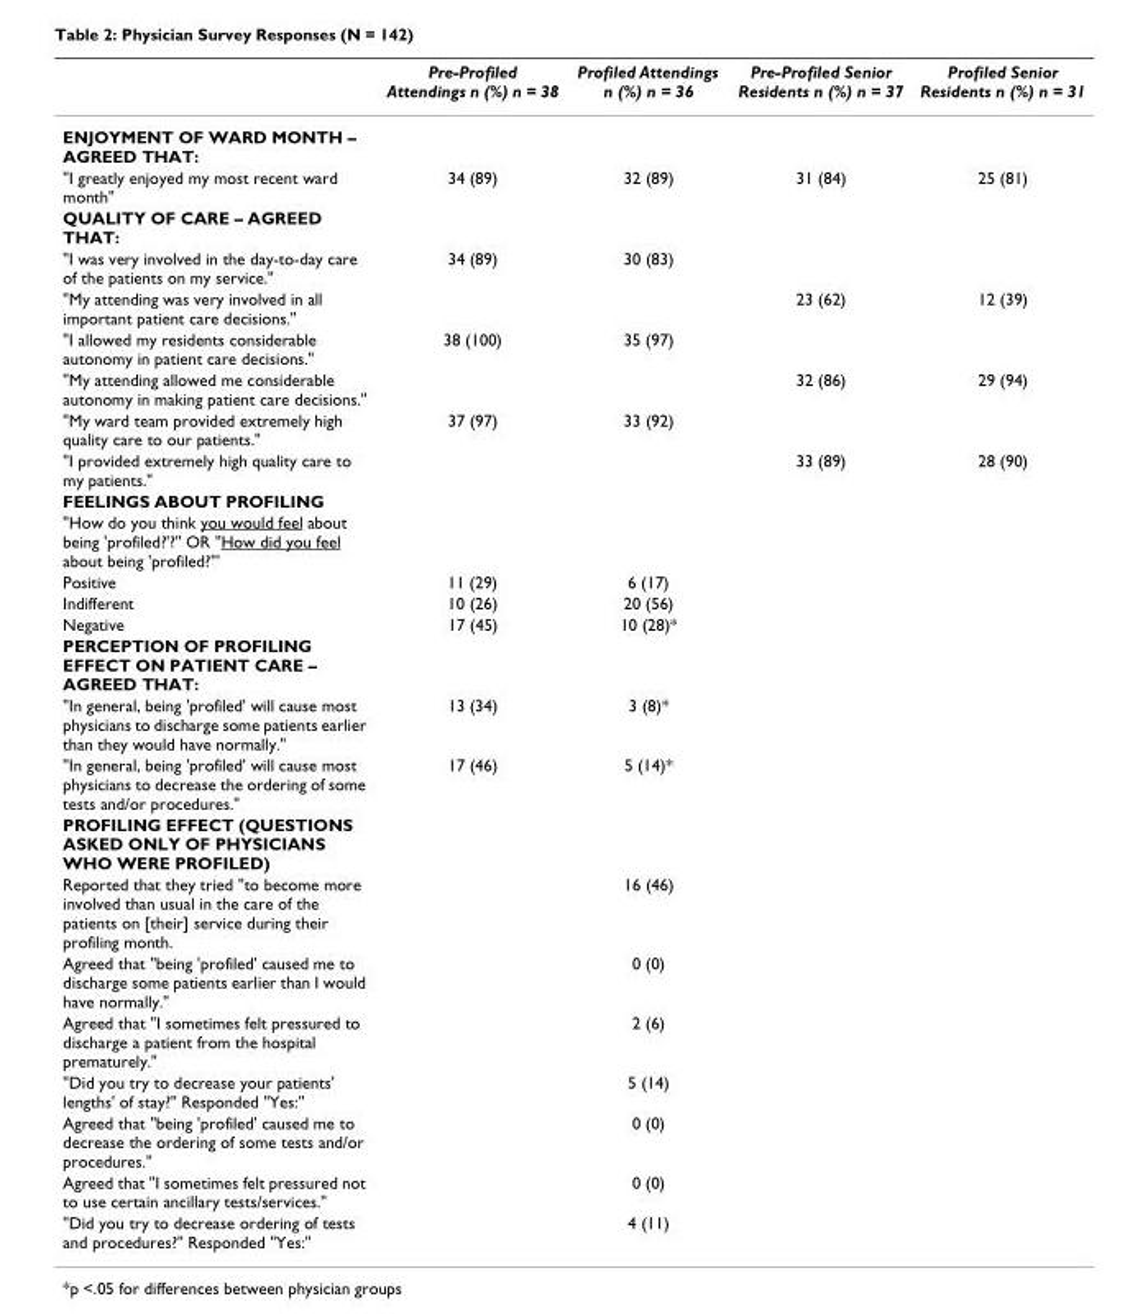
<table><thead><tr><td></td><td>Pre-Profiled Attendings n (%) n = 38</td><td>Profiled Attendings n (%) n = 36</td><td>Pre-Profiled Senior Residents n (%) n = 37</td><td>Profiled Senior Residents n (%) n = 31</td></tr></thead><tbody><tr><td colspan="5">ENJOYMENT OF WARD MONTH – AGREED THAT:</td></tr><tr><td>&quot;I greatly enjoyed my most recent ward month&quot;</td><td>34 (89)</td><td>32 (89)</td><td>31 (84)</td><td>25 (81)</td></tr><tr><td colspan="5">QUALITY OF CARE – AGREED THAT:</td></tr><tr><td>&quot;I was very involved in the day-to-day care of the patients on my service.&quot;</td><td>34 (89)</td><td>30 (83)</td><td></td><td></td></tr><tr><td>&quot;My attending was very involved in all important patient care decisions.&quot;</td><td></td><td></td><td>23 (62)</td><td>12 (39)</td></tr><tr><td>&quot;I allowed my residents considerable autonomy in patient care decisions.&quot;</td><td>38 (100)</td><td>35 (97)</td><td></td><td></td></tr><tr><td>&quot;My attending allowed me considerable autonomy in making patient care decisions.&quot;</td><td></td><td></td><td>32 (86)</td><td>29 (94)</td></tr><tr><td>&quot;My ward team provided extremely high quality care to our patients.&quot;</td><td>37 (97)</td><td>33 (92)</td><td></td><td></td></tr><tr><td>&quot;I provided extremely high quality care to my patients.&quot;</td><td></td><td></td><td>33 (89)</td><td>28 (90)</td></tr><tr><td colspan="5">FEELINGS ABOUT PROFILING</td></tr><tr><td colspan="5">&quot;How do you think you would feel about being &#x27;profiled?&#x27;?&quot; OR &quot;How did you feel about being &#x27;profiled?&quot;&#x27;</td></tr><tr><td>Positive</td><td>11 (29)</td><td>6 (17)</td><td></td><td></td></tr><tr><td>Indifferent</td><td>10 (26)</td><td>20 (56)</td><td></td><td></td></tr><tr><td>Negative</td><td>17 (45)</td><td>10 (28)*</td><td></td><td></td></tr><tr><td colspan="5">PERCEPTION OF PROFILING EFFECT ON PATIENT CARE – AGREED THAT:</td></tr><tr><td>&quot;In general, being &#x27;profiled&#x27; will cause most physicians to discharge some patients earlier than they would have normally.&quot;</td><td>13 (34)</td><td>3 (8)*</td><td></td><td></td></tr><tr><td>&quot;In general, being &#x27;profiled&#x27; will cause most physicians to decrease the ordering of some tests and/or procedures.&quot;</td><td>17 (46)</td><td>5 (14)*</td><td></td><td></td></tr><tr><td colspan="5">PROFILING EFFECT (QUESTIONS ASKED ONLY OF PHYSICIANS WHO WERE PROFILED)</td></tr><tr><td>Reported that they tried &quot;to become more involved than usual in the care of the patients on [their] service during their profiling month.</td><td></td><td>16 (46)</td><td></td><td></td></tr><tr><td>Agreed that &quot;being &#x27;profiled&#x27; caused me to discharge some patients earlier than I would have normally.&quot;</td><td></td><td>0 (0)</td><td></td><td></td></tr><tr><td>Agreed that &quot;I sometimes felt pressured to discharge a patient from the hospital prematurely.&quot;</td><td></td><td>2 (6)</td><td></td><td></td></tr><tr><td>&quot;Did you try to decrease your patients&#x27; lengths&#x27; of stay?&quot; Responded &quot;Yes:&quot;</td><td></td><td>5 (14)</td><td></td><td></td></tr><tr><td>Agreed that &quot;being &#x27;profiled&#x27; caused me to decrease the ordering of some tests and/or procedures.&quot;</td><td></td><td>0 (0)</td><td></td><td></td></tr><tr><td>Agreed that &quot;I sometimes felt pressured not to use certain ancillary tests/services.&quot;</td><td></td><td>0 (0)</td><td></td><td></td></tr><tr><td>&quot;Did you try to decrease ordering of tests and procedures?&quot; Responded &quot;Yes:&quot;</td><td></td><td>4 (11)</td><td></td><td></td></tr></tbody></table>